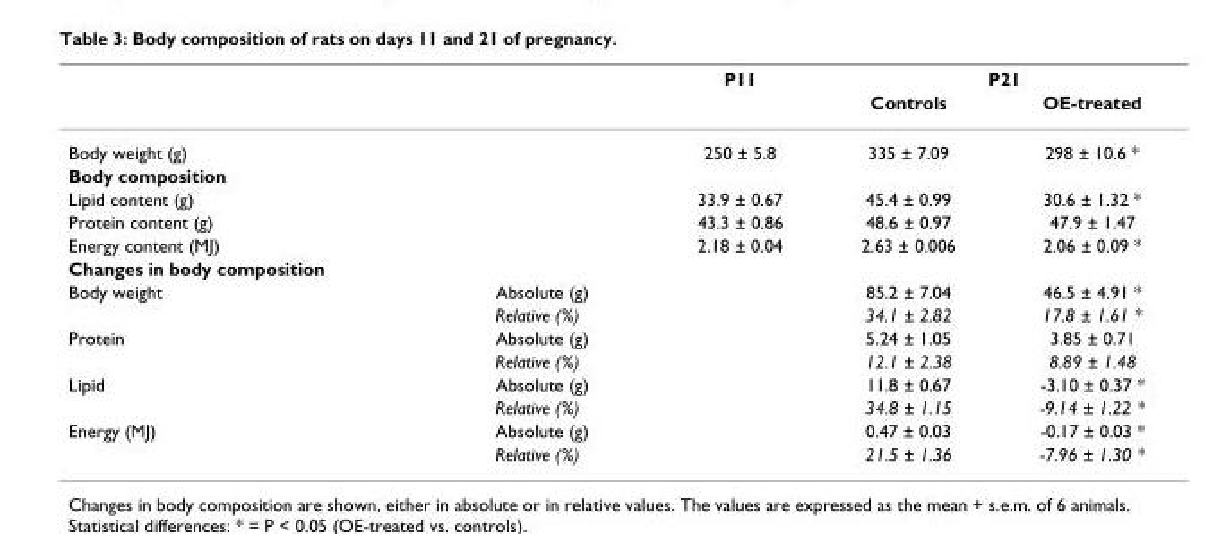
<table><thead><tr><td rowspan="2"></td><td rowspan="2"></td><td rowspan="2">P11</td><td colspan="2">P21</td></tr><tr><td>Controls</td><td>OE-treated</td></tr></thead><tbody><tr><td>Body weight (g)</td><td></td><td>250 ± 5.8</td><td>335 ± 7.09</td><td>298 ± 10.6 *</td></tr><tr><td colspan="5">Body composition</td></tr><tr><td>Lipid content (g)</td><td></td><td>33.9 ± 0.67</td><td>45.4 ± 0.99</td><td>30.6 ± 1.32 *</td></tr><tr><td>Protein content (g)</td><td></td><td>43.3 ± 0.86</td><td>48.6 ± 0.97</td><td>47.9 ± 1.47</td></tr><tr><td>Energy content (MJ)</td><td></td><td>2.18 ± 0.04</td><td>2.63 ± 0.006</td><td>2.06 ± 0.09 *</td></tr><tr><td colspan="5">Changes in body composition</td></tr><tr><td rowspan="2">Body weight</td><td>Absolute (g)</td><td></td><td>85.2 ± 7.04</td><td>46.5 ± 4.91 *</td></tr><tr><td>Relative (%)</td><td></td><td>34.1 ± 2.82</td><td>17.8 ± 1.61 *</td></tr><tr><td rowspan="2">Protein</td><td>Absolute (g)</td><td></td><td>5.24 ± 1.05</td><td>3.85 ± 0.71</td></tr><tr><td>Relative (%)</td><td></td><td>12.1 ± 2.38</td><td>8.89 ± 1.48</td></tr><tr><td rowspan="2">Lipid</td><td>Absolute (g)</td><td></td><td>11.8 ± 0.67</td><td>-3.10 ± 0.37 *</td></tr><tr><td>Relative (%)</td><td></td><td>34.8 ± 1.15</td><td>-9.14 ± 1.22 *</td></tr><tr><td rowspan="2">Energy (MJ)</td><td>Absolute (g)</td><td></td><td>0.47 ± 0.03</td><td>-0.17 ± 0.03 *</td></tr><tr><td>Relative (%)</td><td></td><td>21.5 ± 1.36</td><td>-7.96 ± 1.30 *</td></tr></tbody></table>